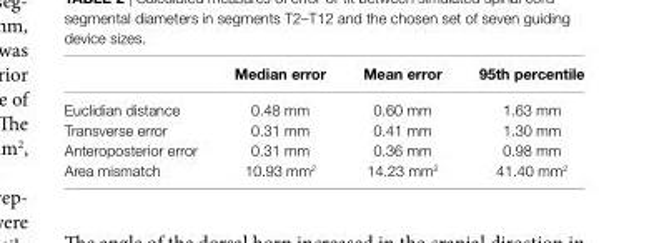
<table><thead><tr><td></td><td>Median error</td><td>Mean error</td><td>95th percentile</td></tr></thead><tbody><tr><td>Euclidian distance</td><td>0.48 mm</td><td>0.60 mm</td><td>1.63 mm</td></tr><tr><td>Transverse error</td><td>0.31 mm</td><td>0.41 mm</td><td>1.30 mm</td></tr><tr><td>Anteroposterior error</td><td>0.31 mm</td><td>0.36 mm</td><td>0.98 mm</td></tr><tr><td>Area mismatch</td><td>10.93 mm<sup>2</sup></td><td>14.23 mm<sup>2</sup></td><td>41.40 mm<sup>2</sup></td></tr></tbody></table>